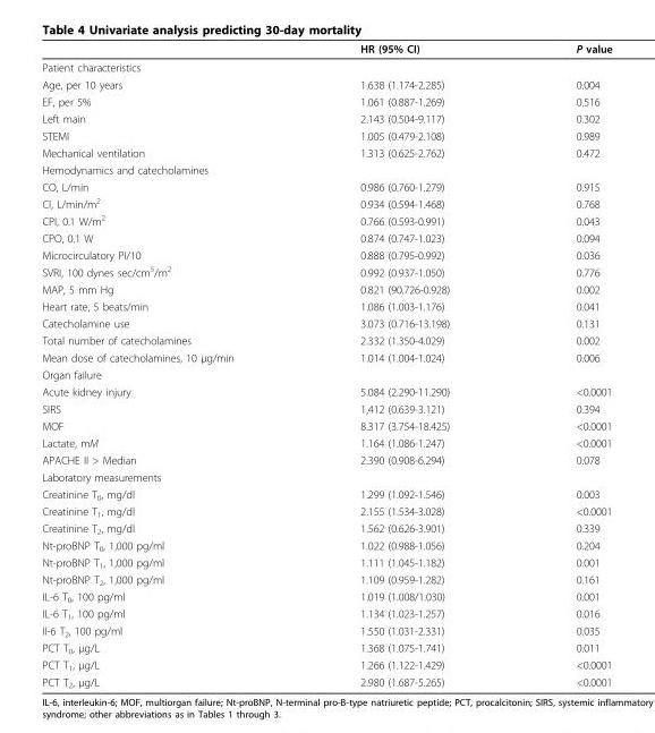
<table><thead><tr><td></td><td>HR (95% CI)</td><td>P value</td></tr></thead><tbody><tr><td colspan="3">Patient characteristics</td></tr><tr><td>Age, per 10 years</td><td>1.638 (1.174-2.285)</td><td>0.004</td></tr><tr><td>EF, per 5%</td><td>1.061 (0.887-1.269)</td><td>0.516</td></tr><tr><td>Left main</td><td>2.143 (0.504-9.117)</td><td>0.302</td></tr><tr><td>STEMI</td><td>1.005 (0.479-2.108)</td><td>0.989</td></tr><tr><td>Mechanical ventilation</td><td>1.313 (0.625-2.762)</td><td>0.472</td></tr><tr><td colspan="3">Hemodynamics and catecholamines</td></tr><tr><td>CO, L/min</td><td>0.986 (0.760-1.279)</td><td>0.915</td></tr><tr><td>CI, L/min/m<sup>2</sup></td><td>0.934 (0.594-1.468)</td><td>0.768</td></tr><tr><td>CPI, 0.1 W/m<sup>2</sup></td><td>0.766 (0.593-0.991)</td><td>0.043</td></tr><tr><td>CPO, 0.1 W</td><td>0.874 (0.747-1.023)</td><td>0.094</td></tr><tr><td>Microcirculatory PI/10</td><td>0.888 (0.795-0.992)</td><td>0.036</td></tr><tr><td>SVRI, 100 dynes sec/cm<sup>5</sup>/m<sup>2</sup></td><td>0.992 (0.937-1.050)</td><td>0.776</td></tr><tr><td>MAP, 5 mm Hg</td><td>0.821 (90.726-0.928)</td><td>0.002</td></tr><tr><td>Heart rate, 5 beats/min</td><td>1.086 (1.003-1.176)</td><td>0.041</td></tr><tr><td>Catecholamine use</td><td>3.073 (0.716-13.198)</td><td>0.131</td></tr><tr><td>Total number of catecholamines</td><td>2.332 (1.350-4.029)</td><td>0.002</td></tr><tr><td>Mean dose of catecholamines, 10 µg/min</td><td>1.014 (1.004-1.024)</td><td>0.006</td></tr><tr><td colspan="3">Organ failure</td></tr><tr><td>Acute kidney injury</td><td>5.084 (2.290-11.290)</td><td>&lt;0.0001</td></tr><tr><td>SIRS</td><td>1,412 (0.639-3.121)</td><td>0.394</td></tr><tr><td>MOF</td><td>8.317 (3.754-18.425)</td><td>&lt;0.0001</td></tr><tr><td>Lactate, mM</td><td>1.164 (1.086-1.247)</td><td>&lt;0.0001</td></tr><tr><td>APACHE II &gt; Median</td><td>2.390 (0.908-6.294)</td><td>0.078</td></tr><tr><td colspan="3">Laboratory measurements</td></tr><tr><td>Creatinine T<sub>0</sub>, mg/dl</td><td>1.299 (1.092-1.546)</td><td>0.003</td></tr><tr><td>Creatinine T<sub>1</sub>, mg/dl</td><td>2.155 (1.534-3.028)</td><td>&lt;0.0001</td></tr><tr><td>Creatinine T<sub>2</sub>, mg/dl</td><td>1.562 (0.626-3.901)</td><td>0.339</td></tr><tr><td>Nt-proBNP T<sub>0</sub>, 1,000 pg/ml</td><td>1.022 (0.988-1.056)</td><td>0.204</td></tr><tr><td>Nt-proBNP T<sub>1</sub>, 1,000 pg/ml</td><td>1.111 (1.045-1.182)</td><td>0.001</td></tr><tr><td>Nt-proBNP T<sub>2</sub>, 1,000 pg/ml</td><td>1.109 (0.959-1.282)</td><td>0.161</td></tr><tr><td>IL-6 T<sub>0</sub>, 100 pg/ml</td><td>1.019 (1.008/1.030)</td><td>0.001</td></tr><tr><td>IL-6 T<sub>1</sub>, 100 pg/ml</td><td>1.134 (1.023-1.257)</td><td>0.016</td></tr><tr><td>Il-6 T<sub>2</sub>, 100 pg/ml</td><td>1.550 (1.031-2.331)</td><td>0.035</td></tr><tr><td>PCT T<sub>0</sub>, µg/L</td><td>1.368 (1.075-1.741)</td><td>0.011</td></tr><tr><td>PCT T<sub>1</sub>, µg/L</td><td>1.266 (1.122-1.429)</td><td>&lt;0.0001</td></tr><tr><td>PCT T<sub>2</sub>, µg/L</td><td>2.980 (1.687-5.265)</td><td>&lt;0.0001</td></tr></tbody></table>